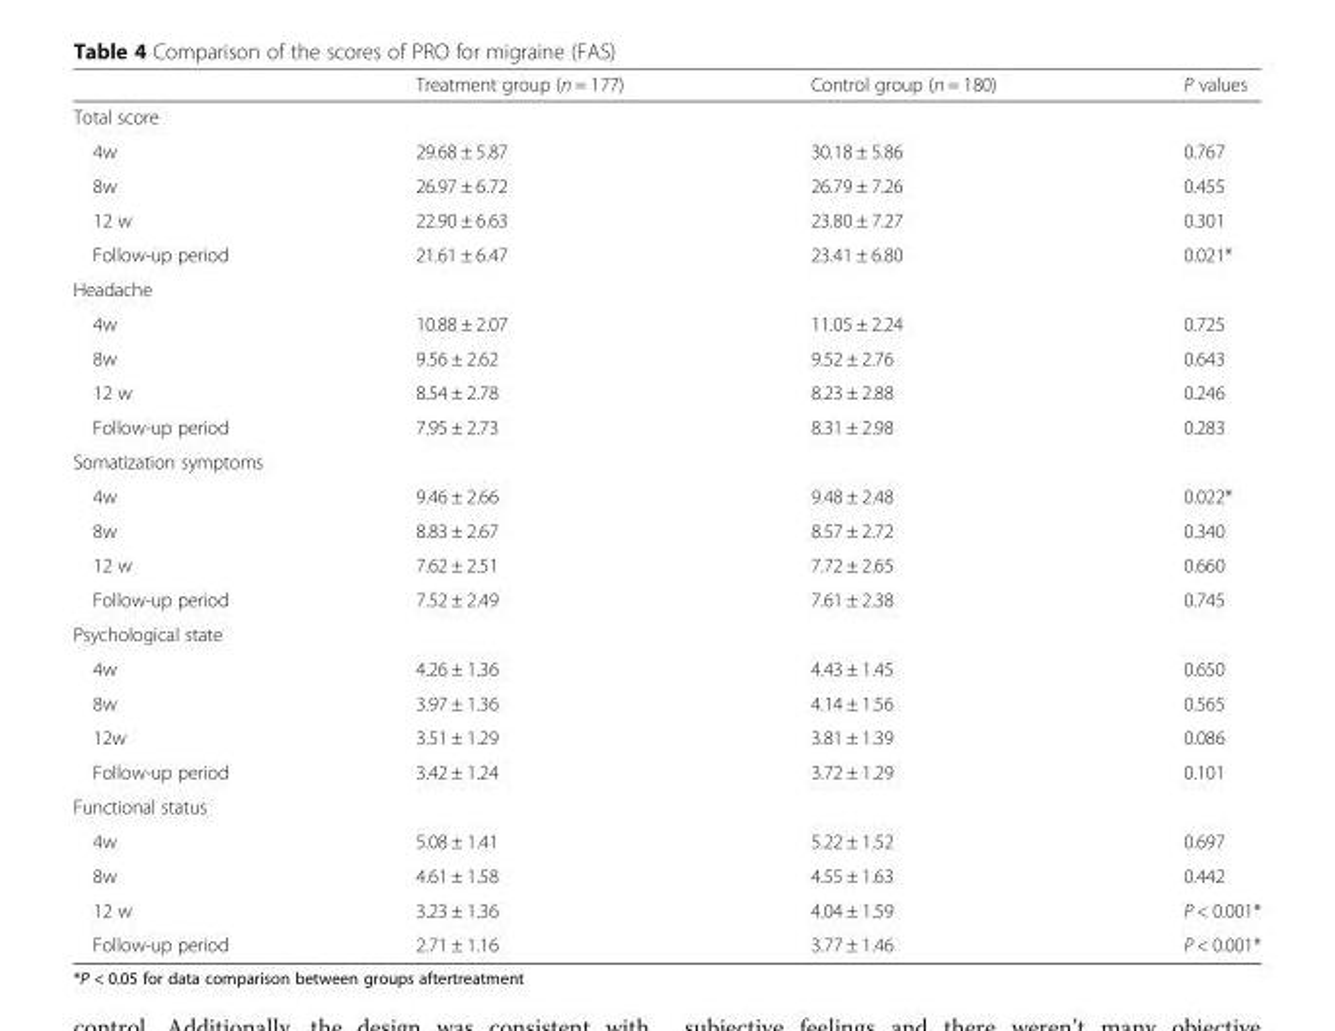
<table><thead><tr><td></td><td>Treatment group (n = 177)</td><td>Control group (n = 180)</td><td>P values</td></tr></thead><tbody><tr><td colspan="4">Total score</td></tr><tr><td>4w</td><td>29.68 ± 5.87</td><td>30.18 ± 5.86</td><td>0.767</td></tr><tr><td>8w</td><td>26.97 ± 6.72</td><td>26.79 ± 7.26</td><td>0.455</td></tr><tr><td>12 w</td><td>22.90 ± 6.63</td><td>23.80 ± 7.27</td><td>0.301</td></tr><tr><td>Follow-up period</td><td>21.61 ± 6.47</td><td>23.41 ± 6.80</td><td>0.021*</td></tr><tr><td colspan="4">Headache</td></tr><tr><td>4w</td><td>10.88 ± 2.07</td><td>11.05 ± 2.24</td><td>0.725</td></tr><tr><td>8w</td><td>9.56 ± 2.62</td><td>9.52 ± 2.76</td><td>0.643</td></tr><tr><td>12 w</td><td>8.54 ± 2.78</td><td>8.23 ± 2.88</td><td>0.246</td></tr><tr><td>Follow-up period</td><td>7.95 ± 2.73</td><td>8.31 ± 2.98</td><td>0.283</td></tr><tr><td colspan="4">Somatization symptoms</td></tr><tr><td>4w</td><td>9.46 ± 2.66</td><td>9.48 ± 2.48</td><td>0.022*</td></tr><tr><td>8w</td><td>8.83 ± 2.67</td><td>8.57 ± 2.72</td><td>0.340</td></tr><tr><td>12 w</td><td>7.62 ± 2.51</td><td>7.72 ± 2.65</td><td>0.660</td></tr><tr><td>Follow-up period</td><td>7.52 ± 2.49</td><td>7.61 ± 2.38</td><td>0.745</td></tr><tr><td colspan="4">Psychological state</td></tr><tr><td>4w</td><td>4.26 ± 1.36</td><td>4.43 ± 1.45</td><td>0.650</td></tr><tr><td>8w</td><td>3.97 ± 1.36</td><td>4.14 ± 1.56</td><td>0.565</td></tr><tr><td>12w</td><td>3.51 ± 1.29</td><td>3.81 ± 1.39</td><td>0.086</td></tr><tr><td>Follow-up period</td><td>3.42 ± 1.24</td><td>3.72 ± 1.29</td><td>0.101</td></tr><tr><td colspan="4">Functional status</td></tr><tr><td>4w</td><td>5.08 ± 1.41</td><td>5.22 ± 1.52</td><td>0.697</td></tr><tr><td>8w</td><td>4.61 ± 1.58</td><td>4.55 ± 1.63</td><td>0.442</td></tr><tr><td>12 w</td><td>3.23 ± 1.36</td><td>4.04 ± 1.59</td><td>P &lt; 0.001*</td></tr><tr><td>Follow-up period</td><td>2.71 ± 1.16</td><td>3.77 ± 1.46</td><td>P &lt; 0.001*</td></tr></tbody></table>